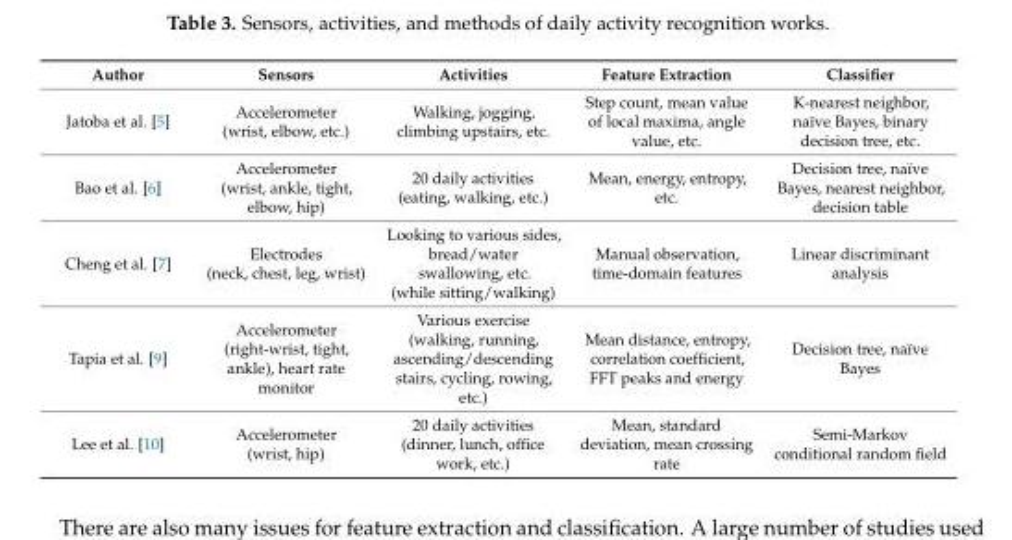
<table><thead><tr><td>Author</td><td>Sensors</td><td>Activities</td><td>Feature Extraction</td><td>Classifier</td></tr></thead><tbody><tr><td>Jatoba et al. [5]</td><td>Accelerometer (wrist, elbow, etc.)</td><td>Walking, jogging, climbing upstairs, etc.</td><td>Step count, mean value of local maxima, angle value, etc.</td><td>K-nearest neighbor, naïve Bayes, binary decision tree, etc.</td></tr><tr><td>Bao et al. [6]</td><td>Accelerometer (wrist, ankle, tight, elbow, hip)</td><td>20 daily activities (eating, walking, etc.)</td><td>Mean, energy, entropy, etc.</td><td>Decision tree, naïve Bayes, nearest neighbor, decision table</td></tr><tr><td>Cheng et al. [7]</td><td>Electrodes (neck, chest, leg, wrist)</td><td>Looking to various sides, bread/water swallowing, etc. (while sitting/walking)</td><td>Manual observation, time-domain features</td><td>Linear discriminant analysis</td></tr><tr><td>Tapia et al. [9]</td><td>Accelerometer (right-wrist, tight, ankle), heart rate monitor</td><td>Various exercise (walking, running, ascending/descending stairs, cycling, rowing, etc.)</td><td>Mean distance, entropy, correlation coefficient, FFT peaks and energy</td><td>Decision tree, naïve Bayes</td></tr><tr><td>Lee et al. [10]</td><td>Accelerometer (wrist, hip)</td><td>20 daily activities (dinner, lunch, office work, etc.)</td><td>Mean, standard deviation, mean crossing rate</td><td>Semi-Markov conditional random field</td></tr></tbody></table>